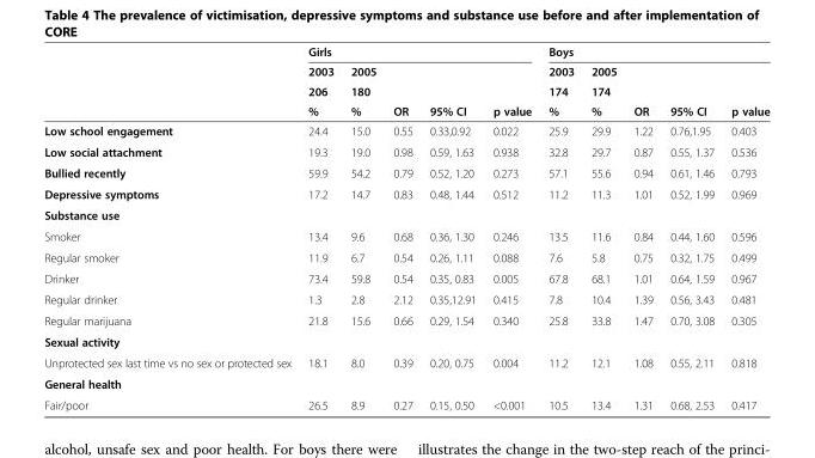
<table><thead><tr><td rowspan="4"></td><td colspan="5">Girls</td><td colspan="5">Boys</td></tr><tr><td rowspan="3">2003 206 %</td><td rowspan="3">2005 180 %</td><td rowspan="3">OR</td><td rowspan="3">95% CI</td><td rowspan="3">p value</td><td rowspan="3">2003 174 %</td><td rowspan="3">2005 174 %</td><td rowspan="3">OR</td><td rowspan="3">95% CI</td><td rowspan="3">p value</td></tr><tr></tr><tr></tr></thead><tbody><tr><td>Low school engagement</td><td>24.4</td><td>15.0</td><td>0.55</td><td>0.33,0.92</td><td>0.022</td><td>25.9</td><td>29.9</td><td>1.22</td><td>0.76,1.95</td><td>0.403</td></tr><tr><td>Low social attachment</td><td>19.3</td><td>19.0</td><td>0.98</td><td>0.59, 1.63</td><td>0.938</td><td>32.8</td><td>29.7</td><td>0.87</td><td>0.55, 1.37</td><td>0.536</td></tr><tr><td>Bullied recently</td><td>59.9</td><td>54.2</td><td>0.79</td><td>0.52, 1.20</td><td>0.273</td><td>57.1</td><td>55.6</td><td>0.94</td><td>0.61, 1.46</td><td>0.793</td></tr><tr><td>Depressive symptoms</td><td>17.2</td><td>14.7</td><td>0.83</td><td>0.48, 1.44</td><td>0.512</td><td>11.2</td><td>11.3</td><td>1.01</td><td>0.52, 1.99</td><td>0.969</td></tr><tr><td colspan="11">Substance use</td></tr><tr><td>Smoker</td><td>13.4</td><td>9.6</td><td>0.68</td><td>0.36, 1.30</td><td>0.246</td><td>13.5</td><td>11.6</td><td>0.84</td><td>0.44, 1.60</td><td>0.596</td></tr><tr><td>Regular smoker</td><td>11.9</td><td>6.7</td><td>0.54</td><td>0.26, 1.11</td><td>0.088</td><td>7.6</td><td>5.8</td><td>0.75</td><td>0.32, 1.75</td><td>0.499</td></tr><tr><td>Drinker</td><td>73.4</td><td>59.8</td><td>0.54</td><td>0.35, 0.83</td><td>0.005</td><td>67.8</td><td>68.1</td><td>1.01</td><td>0.64, 1.59</td><td>0.967</td></tr><tr><td>Regular drinker</td><td>1.3</td><td>2.8</td><td>2.12</td><td>0.35,12.91</td><td>0.415</td><td>7.8</td><td>10.4</td><td>1.39</td><td>0.56, 3.43</td><td>0.481</td></tr><tr><td>Regular marijuana</td><td>21.8</td><td>15.6</td><td>0.66</td><td>0.29, 1.54</td><td>0.340</td><td>25.8</td><td>33.8</td><td>1.47</td><td>0.70, 3.08</td><td>0.305</td></tr><tr><td colspan="11">Sexual activity</td></tr><tr><td>Unprotected sex last time vs no sex or protected sex</td><td>18.1</td><td>8.0</td><td>0.39</td><td>0.20, 0.75</td><td>0.004</td><td>11.2</td><td>12.1</td><td>1.08</td><td>0.55, 2.11</td><td>0.818</td></tr><tr><td colspan="11">General health</td></tr><tr><td>Fair/poor</td><td>26.5</td><td>8.9</td><td>0.27</td><td>0.15, 0.50</td><td>&lt;0.001</td><td>10.5</td><td>13.4</td><td>1.31</td><td>0.68, 2.53</td><td>0.417</td></tr></tbody></table>